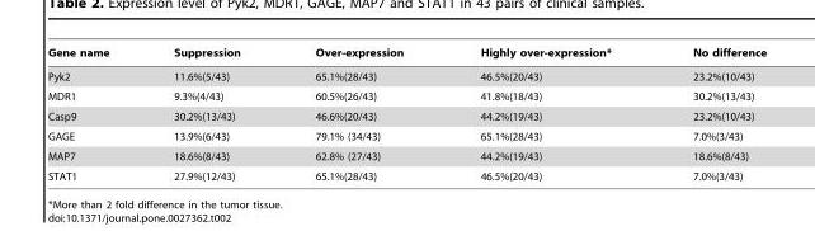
<table><thead><tr><td>Gene name</td><td>Suppression</td><td>Over-expression</td><td>Highly over-expression*</td><td>No difference</td></tr></thead><tbody><tr><td>Pyk2</td><td>11.6%(5/43)</td><td>65.1%(28/43)</td><td>46.5%(20/43)</td><td>23.2%(10/43)</td></tr><tr><td>MDR1</td><td>9.3%(4/43)</td><td>60.5%(26/43)</td><td>41.8%(18/43)</td><td>30.2%(13/43)</td></tr><tr><td>Casp9</td><td>30.2%(13/43)</td><td>46.6%(20/43)</td><td>44.2%(19/43)</td><td>23.2%(10/43)</td></tr><tr><td>GAGE</td><td>13.9%(6/43)</td><td>79.1% (34/43)</td><td>65.1%(28/43)</td><td>7.0%(3/43)</td></tr><tr><td>MAP7</td><td>18.6%(8/43)</td><td>62.8% (27/43)</td><td>44.2%(19/43)</td><td>18.6%(8/43)</td></tr><tr><td>STAT1</td><td>27.9%(12/43)</td><td>65.1%(28/43)</td><td>46.5%(20/43)</td><td>7.0%(3/43)</td></tr></tbody></table>